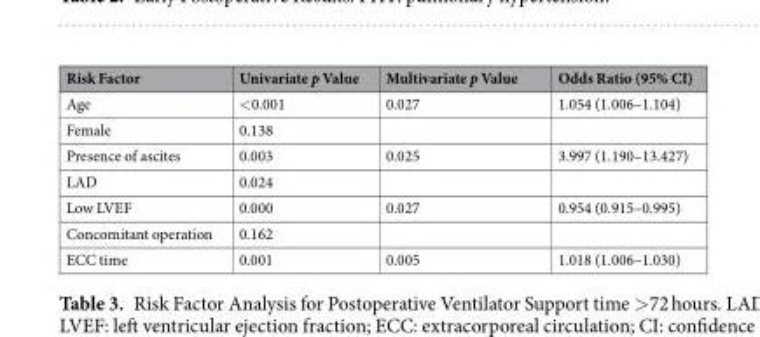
<table><thead><tr><td>Risk Factor</td><td>Univariate p Value</td><td>Multivariate p Value</td><td>Odds Ratio (95% CI)</td></tr></thead><tbody><tr><td>Age</td><td>&lt;0.001</td><td>0.027</td><td>1.054 (1.006–1.104)</td></tr><tr><td>Female</td><td>0.138</td><td></td><td></td></tr><tr><td>Presence of ascites</td><td>0.003</td><td>0.025</td><td>3.997 (1.190–13.427)</td></tr><tr><td>LAD</td><td>0.024</td><td></td><td></td></tr><tr><td>Low LVEF</td><td>0.000</td><td>0.027</td><td>0.954 (0.915–0.995)</td></tr><tr><td>Concomitant operation</td><td>0.162</td><td></td><td></td></tr><tr><td>ECC time</td><td>0.001</td><td>0.005</td><td>1.018 (1.006–1.030)</td></tr></tbody></table>